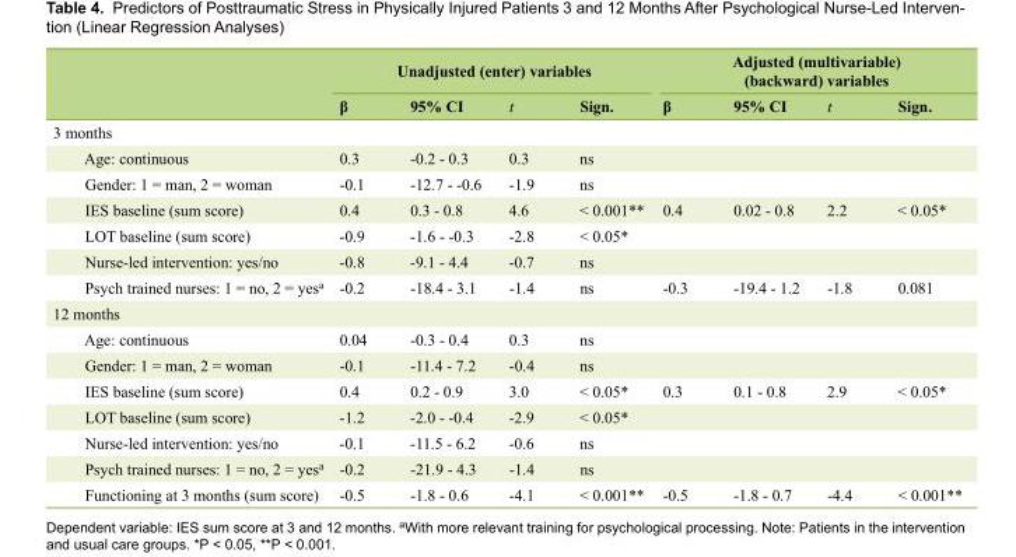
<table><thead><tr><td rowspan="2"></td><td colspan="4">Unadjusted (enter) variables</td><td colspan="4">Adjusted (multivariable) (backward) variables</td></tr><tr><td>β</td><td>95% CI</td><td>t</td><td>Sign.</td><td>β</td><td>95% CI</td><td>t</td><td>Sign.</td></tr></thead><tbody><tr><td colspan="9">3 months</td></tr><tr><td>Age: continuous</td><td>0.3</td><td>-0.2 - 0.3</td><td>0.3</td><td>ns</td><td></td><td></td><td></td><td></td></tr><tr><td>Gender: 1 = man, 2 = woman</td><td>-0.1</td><td>-12.7 - -0.6</td><td>-1.9</td><td>ns</td><td></td><td></td><td></td><td></td></tr><tr><td>IES baseline (sum score)</td><td>0.4</td><td>0.3 - 0.8</td><td>4.6</td><td>&lt; 0.001**</td><td>0.4</td><td>0.02 - 0.8</td><td>2.2</td><td>&lt; 0.05*</td></tr><tr><td>LOT baseline (sum score)</td><td>-0.9</td><td>-1.6 - -0.3</td><td>-2.8</td><td>&lt; 0.05*</td><td></td><td></td><td></td><td></td></tr><tr><td>Nurse-led intervention: yes/no</td><td>-0.8</td><td>-9.1 - 4.4</td><td>-0.7</td><td>ns</td><td></td><td></td><td></td><td></td></tr><tr><td>Psych trained nurses: 1 = no, 2 = yes<sup>a</sup></td><td>-0.2</td><td>-18.4 - 3.1</td><td>-1.4</td><td>ns</td><td>-0.3</td><td>-19.4 - 1.2</td><td>-1.8</td><td>0.081</td></tr><tr><td colspan="9">12 months</td></tr><tr><td>Age: continuous</td><td>0.04</td><td>-0.3 - 0.4</td><td>0.3</td><td>ns</td><td></td><td></td><td></td><td></td></tr><tr><td>Gender: 1 = man, 2 = woman</td><td>-0.1</td><td>-11.4 - 7.2</td><td>-0.4</td><td>ns</td><td></td><td></td><td></td><td></td></tr><tr><td>IES baseline (sum score)</td><td>0.4</td><td>0.2 - 0.9</td><td>3.0</td><td>&lt; 0.05*</td><td>0.3</td><td>0.1 - 0.8</td><td>2.9</td><td>&lt; 0.05*</td></tr><tr><td>LOT baseline (sum score)</td><td>-1.2</td><td>-2.0 - -0.4</td><td>-2.9</td><td>&lt; 0.05*</td><td></td><td></td><td></td><td></td></tr><tr><td>Nurse-led intervention: yes/no</td><td>-0.1</td><td>-11.5 - 6.2</td><td>-0.6</td><td>ns</td><td></td><td></td><td></td><td></td></tr><tr><td>Psych trained nurses: 1 = no, 2 = yes<sup>a</sup></td><td>-0.2</td><td>-21.9 - 4.3</td><td>-1.4</td><td>ns</td><td></td><td></td><td></td><td></td></tr><tr><td>Functioning at 3 months (sum score)</td><td>-0.5</td><td>-1.8 - 0.6</td><td>-4.1</td><td>&lt; 0.001**</td><td>-0.5</td><td>-1.8 - 0.7</td><td>-4.4</td><td>&lt; 0.001**</td></tr></tbody></table>